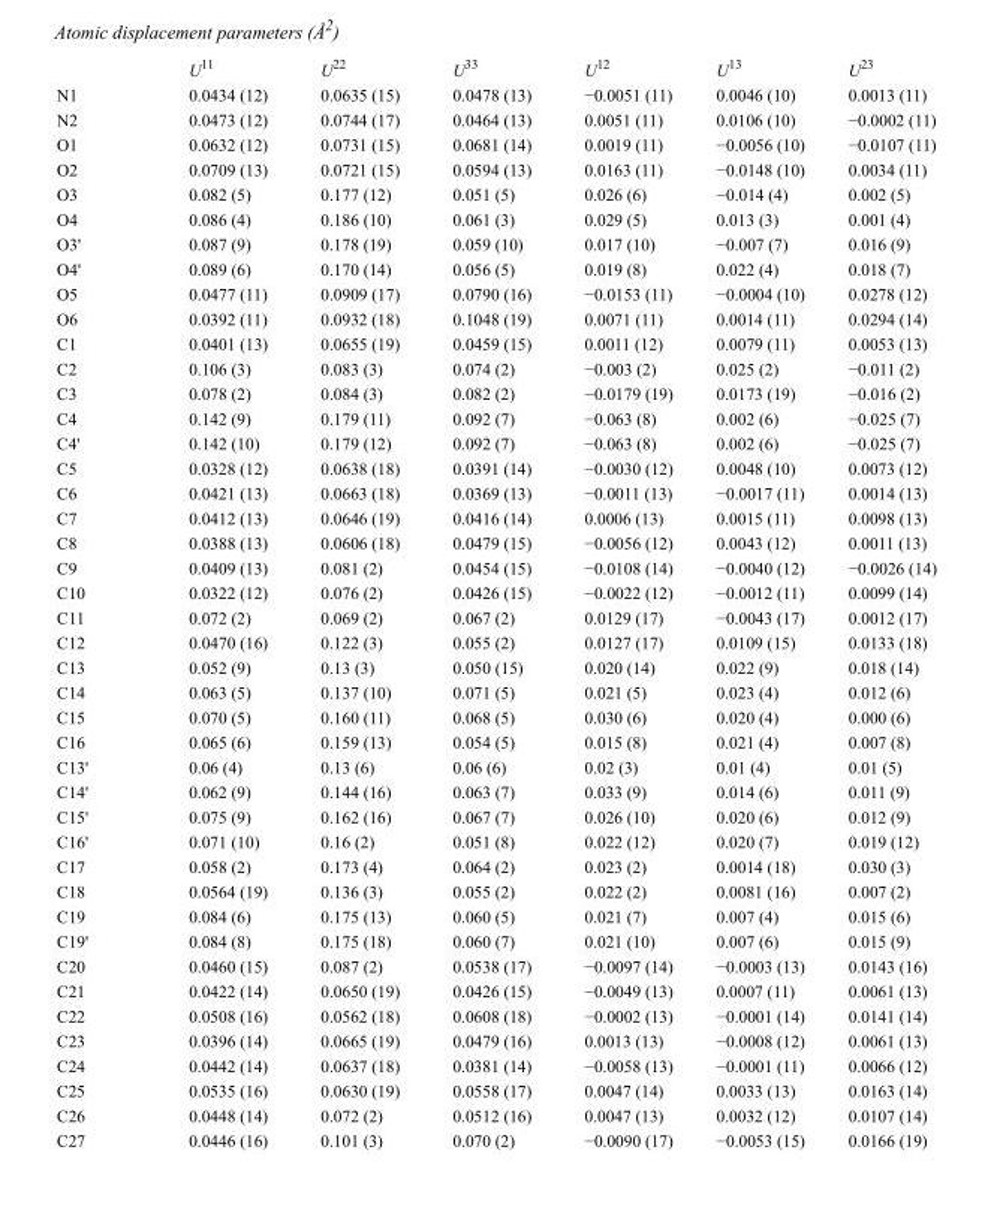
<table><thead><tr><td></td><td>U<sup>11</sup></td><td>U<sup>22</sup></td><td>U<sup>33</sup></td><td>U<sup>12</sup></td><td>U<sup>13</sup></td><td>U<sup>23</sup></td></tr></thead><tbody><tr><td>N1</td><td>0.0434 (12)</td><td>0.0635 (15)</td><td>0.0478 (13)</td><td>−0.0051 (11)</td><td>0.0046 (10)</td><td>0.0013 (11)</td></tr><tr><td>N2</td><td>0.0473 (12)</td><td>0.0744 (17)</td><td>0.0464 (13)</td><td>0.0051 (11)</td><td>0.0106 (10)</td><td>−0.0002 (11)</td></tr><tr><td>O1</td><td>0.0632 (12)</td><td>0.0731 (15)</td><td>0.0681 (14)</td><td>0.0019 (11)</td><td>−0.0056 (10)</td><td>−0.0107 (11)</td></tr><tr><td>O2</td><td>0.0709 (13)</td><td>0.0721 (15)</td><td>0.0594 (13)</td><td>0.0163 (11)</td><td>−0.0148 (10)</td><td>0.0034 (11)</td></tr><tr><td>O3</td><td>0.082 (5)</td><td>0.177 (12)</td><td>0.051 (5)</td><td>0.026 (6)</td><td>−0.014 (4)</td><td>0.002 (5)</td></tr><tr><td>O4</td><td>0.086 (4)</td><td>0.186 (10)</td><td>0.061 (3)</td><td>0.029 (5)</td><td>0.013 (3)</td><td>0.001 (4)</td></tr><tr><td>O3&#x27;</td><td>0.087 (9)</td><td>0.178 (19)</td><td>0.059 (10)</td><td>0.017 (10)</td><td>−0.007 (7)</td><td>0.016 (9)</td></tr><tr><td>O4&#x27;</td><td>0.089 (6)</td><td>0.170 (14)</td><td>0.056 (5)</td><td>0.019 (8)</td><td>0.022 (4)</td><td>0.018 (7)</td></tr><tr><td>O5</td><td>0.0477 (11)</td><td>0.0909 (17)</td><td>0.0790 (16)</td><td>−0.0153 (11)</td><td>−0.0004 (10)</td><td>0.0278 (12)</td></tr><tr><td>O6</td><td>0.0392 (11)</td><td>0.0932 (18)</td><td>0.1048 (19)</td><td>0.0071 (11)</td><td>0.0014 (11)</td><td>0.0294 (14)</td></tr><tr><td>C1</td><td>0.0401 (13)</td><td>0.0655 (19)</td><td>0.0459 (15)</td><td>0.0011 (12)</td><td>0.0079 (11)</td><td>0.0053 (13)</td></tr><tr><td>C2</td><td>0.106 (3)</td><td>0.083 (3)</td><td>0.074 (2)</td><td>−0.003 (2)</td><td>0.025 (2)</td><td>−0.011 (2)</td></tr><tr><td>C3</td><td>0.078 (2)</td><td>0.084 (3)</td><td>0.082 (2)</td><td>−0.0179 (19)</td><td>0.0173 (19)</td><td>−0.016 (2)</td></tr><tr><td>C4</td><td>0.142 (9)</td><td>0.179 (11)</td><td>0.092 (7)</td><td>−0.063 (8)</td><td>0.002 (6)</td><td>−0.025 (7)</td></tr><tr><td>C4&#x27;</td><td>0.142 (10)</td><td>0.179 (12)</td><td>0.092 (7)</td><td>−0.063 (8)</td><td>0.002 (6)</td><td>−0.025 (7)</td></tr><tr><td>C5</td><td>0.0328 (12)</td><td>0.0638 (18)</td><td>0.0391 (14)</td><td>−0.0030 (12)</td><td>0.0048 (10)</td><td>0.0073 (12)</td></tr><tr><td>C6</td><td>0.0421 (13)</td><td>0.0663 (18)</td><td>0.0369 (13)</td><td>−0.0011 (13)</td><td>−0.0017 (11)</td><td>0.0014 (13)</td></tr><tr><td>C7</td><td>0.0412 (13)</td><td>0.0646 (19)</td><td>0.0416 (14)</td><td>0.0006 (13)</td><td>0.0015 (11)</td><td>0.0098 (13)</td></tr><tr><td>C8</td><td>0.0388 (13)</td><td>0.0606 (18)</td><td>0.0479 (15)</td><td>−0.0056 (12)</td><td>0.0043 (12)</td><td>0.0011 (13)</td></tr><tr><td>C9</td><td>0.0409 (13)</td><td>0.081 (2)</td><td>0.0454 (15)</td><td>−0.0108 (14)</td><td>−0.0040 (12)</td><td>−0.0026 (14)</td></tr><tr><td>C10</td><td>0.0322 (12)</td><td>0.076 (2)</td><td>0.0426 (15)</td><td>−0.0022 (12)</td><td>−0.0012 (11)</td><td>0.0099 (14)</td></tr><tr><td>C11</td><td>0.072 (2)</td><td>0.069 (2)</td><td>0.067 (2)</td><td>0.0129 (17)</td><td>−0.0043 (17)</td><td>0.0012 (17)</td></tr><tr><td>C12</td><td>0.0470 (16)</td><td>0.122 (3)</td><td>0.055 (2)</td><td>0.0127 (17)</td><td>0.0109 (15)</td><td>0.0133 (18)</td></tr><tr><td>C13</td><td>0.052 (9)</td><td>0.13 (3)</td><td>0.050 (15)</td><td>0.020 (14)</td><td>0.022 (9)</td><td>0.018 (14)</td></tr><tr><td>C14</td><td>0.063 (5)</td><td>0.137 (10)</td><td>0.071 (5)</td><td>0.021 (5)</td><td>0.023 (4)</td><td>0.012 (6)</td></tr><tr><td>C15</td><td>0.070 (5)</td><td>0.160 (11)</td><td>0.068 (5)</td><td>0.030 (6)</td><td>0.020 (4)</td><td>0.000 (6)</td></tr><tr><td>C16</td><td>0.065 (6)</td><td>0.159 (13)</td><td>0.054 (5)</td><td>0.015 (8)</td><td>0.021 (4)</td><td>0.007 (8)</td></tr><tr><td>C13&#x27;</td><td>0.06 (4)</td><td>0.13 (6)</td><td>0.06 (6)</td><td>0.02 (3)</td><td>0.01 (4)</td><td>0.01 (5)</td></tr><tr><td>C14&#x27;</td><td>0.062 (9)</td><td>0.144 (16)</td><td>0.063 (7)</td><td>0.033 (9)</td><td>0.014 (6)</td><td>0.011 (9)</td></tr><tr><td>C15&#x27;</td><td>0.075 (9)</td><td>0.162 (16)</td><td>0.067 (7)</td><td>0.026 (10)</td><td>0.020 (6)</td><td>0.012 (9)</td></tr><tr><td>C16&#x27;</td><td>0.071 (10)</td><td>0.16 (2)</td><td>0.051 (8)</td><td>0.022 (12)</td><td>0.020 (7)</td><td>0.019 (12)</td></tr><tr><td>C17</td><td>0.058 (2)</td><td>0.173 (4)</td><td>0.064 (2)</td><td>0.023 (2)</td><td>0.0014 (18)</td><td>0.030 (3)</td></tr><tr><td>C18</td><td>0.0564 (19)</td><td>0.136 (3)</td><td>0.055 (2)</td><td>0.022 (2)</td><td>0.0081 (16)</td><td>0.007 (2)</td></tr><tr><td>C19</td><td>0.084 (6)</td><td>0.175 (13)</td><td>0.060 (5)</td><td>0.021 (7)</td><td>0.007 (4)</td><td>0.015 (6)</td></tr><tr><td>C19&#x27;</td><td>0.084 (8)</td><td>0.175 (18)</td><td>0.060 (7)</td><td>0.021 (10)</td><td>0.007 (6)</td><td>0.015 (9)</td></tr><tr><td>C20</td><td>0.0460 (15)</td><td>0.087 (2)</td><td>0.0538 (17)</td><td>−0.0097 (14)</td><td>−0.0003 (13)</td><td>0.0143 (16)</td></tr><tr><td>C21</td><td>0.0422 (14)</td><td>0.0650 (19)</td><td>0.0426 (15)</td><td>−0.0049 (13)</td><td>0.0007 (11)</td><td>0.0061 (13)</td></tr><tr><td>C22</td><td>0.0508 (16)</td><td>0.0562 (18)</td><td>0.0608 (18)</td><td>−0.0002 (13)</td><td>−0.0001 (14)</td><td>0.0141 (14)</td></tr><tr><td>C23</td><td>0.0396 (14)</td><td>0.0665 (19)</td><td>0.0479 (16)</td><td>0.0013 (13)</td><td>−0.0008 (12)</td><td>0.0061 (13)</td></tr><tr><td>C24</td><td>0.0442 (14)</td><td>0.0637 (18)</td><td>0.0381 (14)</td><td>−0.0058 (13)</td><td>−0.0001 (11)</td><td>0.0066 (12)</td></tr><tr><td>C25</td><td>0.0535 (16)</td><td>0.0630 (19)</td><td>0.0558 (17)</td><td>0.0047 (14)</td><td>0.0033 (13)</td><td>0.0163 (14)</td></tr><tr><td>C26</td><td>0.0448 (14)</td><td>0.072 (2)</td><td>0.0512 (16)</td><td>0.0047 (13)</td><td>0.0032 (12)</td><td>0.0107 (14)</td></tr><tr><td>C27</td><td>0.0446 (16)</td><td>0.101 (3)</td><td>0.070 (2)</td><td>−0.0090 (17)</td><td>−0.0053 (15)</td><td>0.0166 (19)</td></tr></tbody></table>